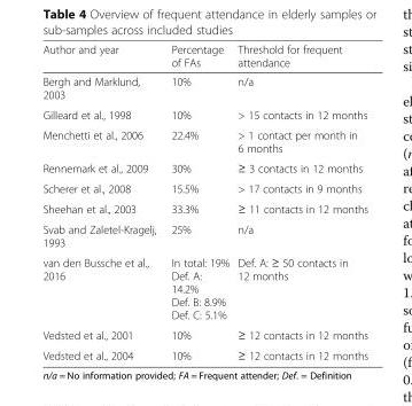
<table><thead><tr><td>Author and year</td><td>Percentage of FAs</td><td>Threshold for frequent attendance</td></tr></thead><tbody><tr><td>Bergh and Marklund, 2003</td><td>10%</td><td>n/a</td></tr><tr><td>Gilleard et al., 1998</td><td>10%</td><td>&gt; 15 contacts in 12 months</td></tr><tr><td>Menchetti et al., 2006</td><td>22.4%</td><td>&gt; 1 contact per month in 6 months</td></tr><tr><td>Rennemark et al., 2009</td><td>30%</td><td>≥ 3 contacts in 12 months</td></tr><tr><td>Scherer et al., 2008</td><td>15.5%</td><td>&gt; 17 contacts in 9 months</td></tr><tr><td>Sheehan et al., 2003</td><td>33.3%</td><td>≥ 11 contacts in 12 months</td></tr><tr><td>Svab and Zaletel-Kragelj, 1993</td><td>25%</td><td>n/a</td></tr><tr><td>van den Bussche et al., 2016</td><td>In total: 19% Def. A: 14.2% Def. B: 8.9% Def. C: 5.1%</td><td>Def. A: ≥ 50 contacts in 12 months</td></tr><tr><td>Vedsted et al., 2001</td><td>10%</td><td>≥ 12 contacts in 12 months</td></tr><tr><td>Vedsted et al., 2004</td><td>10%</td><td>≥ 12 contacts in 12 months</td></tr></tbody></table>